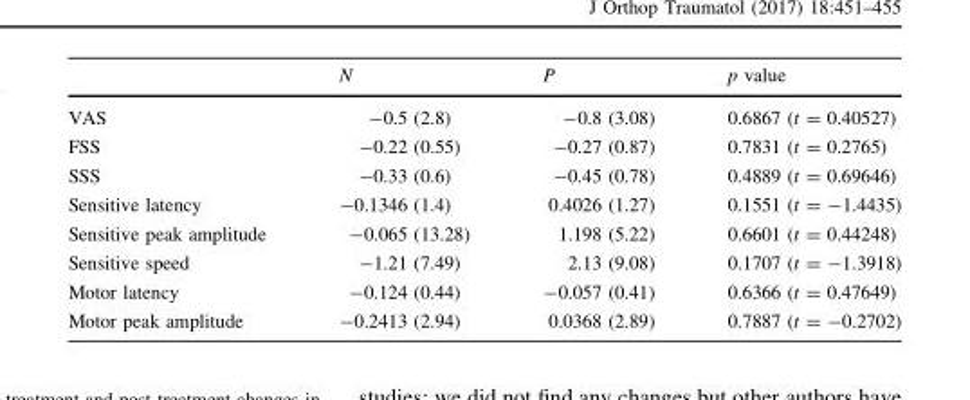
<table><thead><tr><td></td><td>N</td><td>P</td><td>p value</td></tr></thead><tbody><tr><td>VAS</td><td>-0.5 (2.8)</td><td>-0.8 (3.08)</td><td>0.6867 (t = 0.40527)</td></tr><tr><td>FSS</td><td>-0.22 (0.55)</td><td>-0.27 (0.87)</td><td>0.7831 (t = 0.2765)</td></tr><tr><td>SSS</td><td>-0.33 (0.6)</td><td>-0.45 (0.78)</td><td>0.4889 (t = 0.69646)</td></tr><tr><td>Sensitive latency</td><td>-0.1346 (1.4)</td><td>0.4026 (1.27)</td><td>0.1551 (t = -1.4435)</td></tr><tr><td>Sensitive peak amplitude</td><td>-0.065 (13.28)</td><td>1.198 (5.22)</td><td>0.6601 (t = 0.44248)</td></tr><tr><td>Sensitive speed</td><td>-1.21 (7.49)</td><td>2.13 (9.08)</td><td>0.1707 (t = -1.3918)</td></tr><tr><td>Motor latency</td><td>-0.124 (0.44)</td><td>-0.057 (0.41)</td><td>0.6366 (t = 0.47649)</td></tr><tr><td>Motor peak amplitude</td><td>-0.2413 (2.94)</td><td>0.0368 (2.89)</td><td>0.7887 (t = -0.2702)</td></tr></tbody></table>